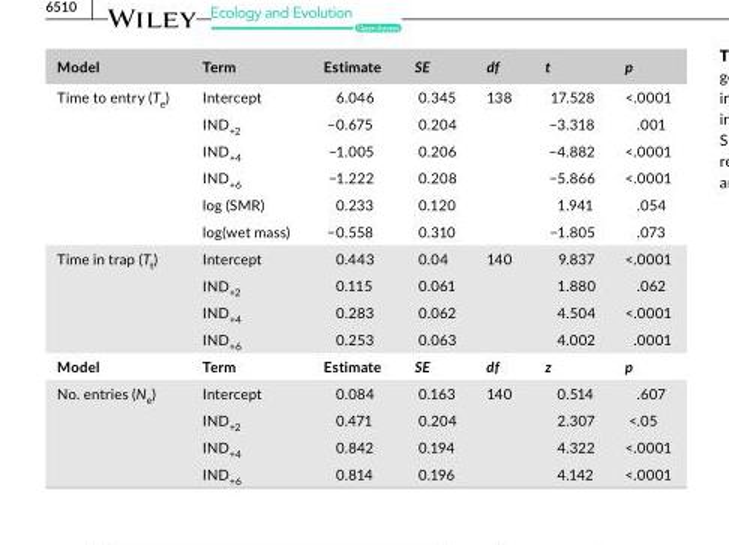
<table><thead><tr><td>Model</td><td>Term</td><td>Estimate</td><td>SE</td><td>df</td><td>t</td><td>p</td></tr></thead><tbody><tr><td rowspan="6">Time to entry (T<sub>e</sub>)</td><td>Intercept</td><td>6.046</td><td>0.345</td><td>138</td><td>17.528</td><td>&lt;.0001</td></tr><tr><td>IND<sub>+2</sub></td><td>−0.675</td><td>0.204</td><td></td><td>−3.318</td><td>.001</td></tr><tr><td>IND<sub>+4</sub></td><td>−1.005</td><td>0.206</td><td></td><td>−4.882</td><td>&lt;.0001</td></tr><tr><td>IND<sub>+6</sub></td><td>−1.222</td><td>0.208</td><td></td><td>−5.866</td><td>&lt;.0001</td></tr><tr><td>log (SMR)</td><td>0.233</td><td>0.120</td><td></td><td>1.941</td><td>.054</td></tr><tr><td>log(wet mass)</td><td>−0.558</td><td>0.310</td><td></td><td>−1.805</td><td>.073</td></tr><tr><td rowspan="4">Time in trap (T<sub>t</sub>)</td><td>Intercept</td><td>0.443</td><td>0.04</td><td>140</td><td>9.837</td><td>&lt;.0001</td></tr><tr><td>IND<sub>+2</sub></td><td>0.115</td><td>0.061</td><td></td><td>1.880</td><td>.062</td></tr><tr><td>IND<sub>+4</sub></td><td>0.283</td><td>0.062</td><td></td><td>4.504</td><td>&lt;.0001</td></tr><tr><td>IND<sub>+6</sub></td><td>0.253</td><td>0.063</td><td></td><td>4.002</td><td>.0001</td></tr><tr><td>Model</td><td>Term</td><td>Estimate</td><td>SE</td><td>df</td><td>z</td><td>p</td></tr><tr><td rowspan="4">No. entries (N<sub>e</sub>)</td><td>Intercept</td><td>0.084</td><td>0.163</td><td>140</td><td>0.514</td><td>.607</td></tr><tr><td>IND<sub>+2</sub></td><td>0.471</td><td>0.204</td><td></td><td>2.307</td><td>&lt;.05</td></tr><tr><td>IND<sub>+4</sub></td><td>0.842</td><td>0.194</td><td></td><td>4.322</td><td>&lt;.0001</td></tr><tr><td>IND<sub>+6</sub></td><td>0.814</td><td>0.196</td><td></td><td>4.142</td><td>&lt;.0001</td></tr></tbody></table>